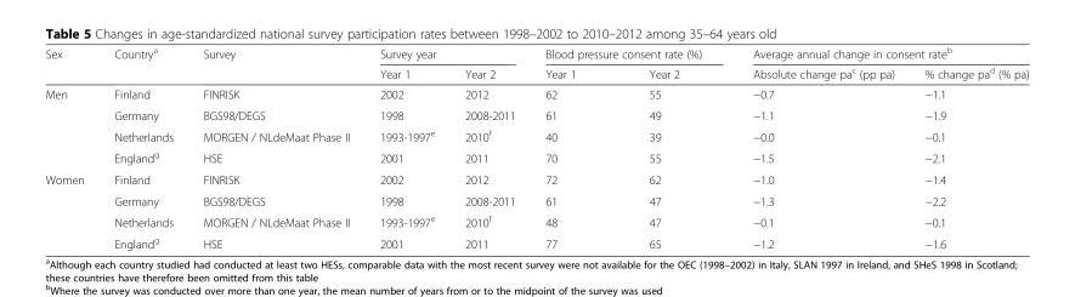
<table><thead><tr><td rowspan="2">Sex</td><td rowspan="2">Country<sup>a</sup></td><td rowspan="2">Survey</td><td colspan="2">Survey year</td><td colspan="2">Blood pressure consent rate (%)</td><td colspan="2">Average annual change in consent rate<sup>b</sup></td></tr><tr><td>Year 1</td><td>Year 2</td><td>Year 1</td><td>Year 2</td><td>Absolute change pa<sup>c</sup> (pp pa)</td><td>% change pa<sup>d</sup> (% pa)</td></tr></thead><tbody><tr><td rowspan="4">Men</td><td>Finland</td><td>FINRISK</td><td>2002</td><td>2012</td><td>62</td><td>55</td><td>−0.7</td><td>−1.1</td></tr><tr><td>Germany</td><td>BGS98/DEGS</td><td>1998</td><td>2008-2011</td><td>61</td><td>49</td><td>−1.1</td><td>−1.9</td></tr><tr><td>Netherlands</td><td>MORGEN / NLdeMaat Phase II</td><td>1993-1997<sup>e</sup></td><td>2010<sup>f</sup></td><td>40</td><td>39</td><td>−0.0</td><td>−0.1</td></tr><tr><td>England<sup>g</sup></td><td>HSE</td><td>2001</td><td>2011</td><td>70</td><td>55</td><td>−1.5</td><td>−2.1</td></tr><tr><td rowspan="4">Women</td><td>Finland</td><td>FINRISK</td><td>2002</td><td>2012</td><td>72</td><td>62</td><td>−1.0</td><td>−1.4</td></tr><tr><td>Germany</td><td>BGS98/DEGS</td><td>1998</td><td>2008-2011</td><td>61</td><td>47</td><td>−1.3</td><td>−2.2</td></tr><tr><td>Netherlands</td><td>MORGEN / NLdeMaat Phase II</td><td>1993-1997<sup>e</sup></td><td>2010<sup>f</sup></td><td>48</td><td>47</td><td>−0.1</td><td>−0.1</td></tr><tr><td>England<sup>g</sup></td><td>HSE</td><td>2001</td><td>2011</td><td>77</td><td>65</td><td>−1.2</td><td>−1.6</td></tr></tbody></table>